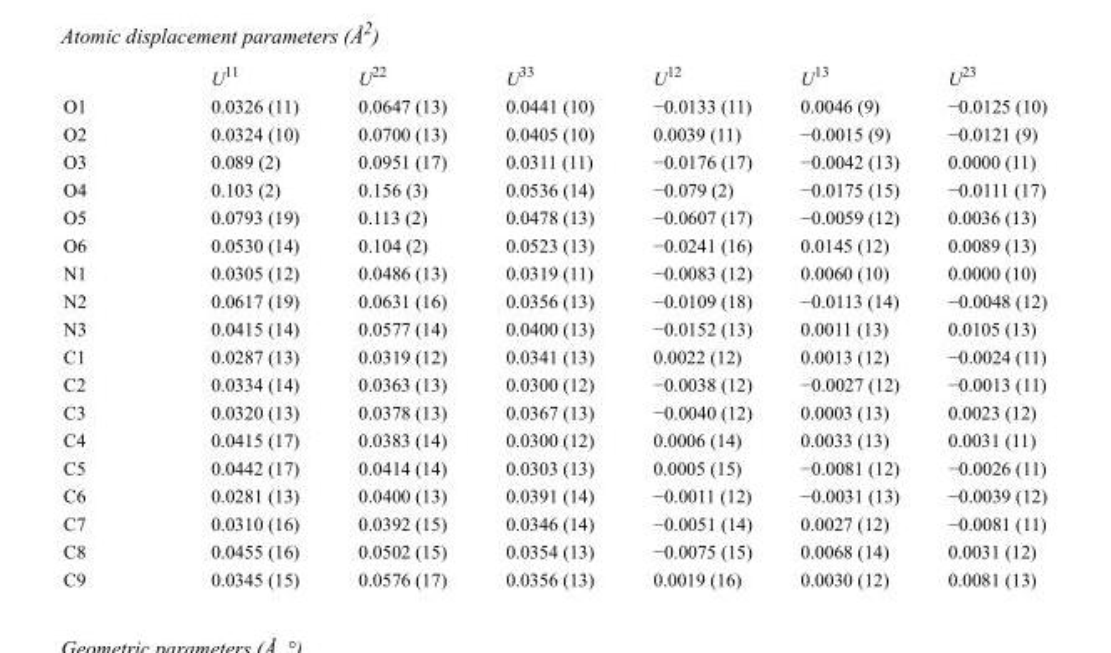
<table><thead><tr><td></td><td>U<sup>11</sup></td><td>U<sup>22</sup></td><td>U<sup>33</sup></td><td>U<sup>12</sup></td><td>U<sup>13</sup></td><td>U<sup>23</sup></td></tr></thead><tbody><tr><td>O1</td><td>0.0326 (11)</td><td>0.0647 (13)</td><td>0.0441 (10)</td><td>−0.0133 (11)</td><td>0.0046 (9)</td><td>−0.0125 (10)</td></tr><tr><td>O2</td><td>0.0324 (10)</td><td>0.0700 (13)</td><td>0.0405 (10)</td><td>0.0039 (11)</td><td>−0.0015 (9)</td><td>−0.0121 (9)</td></tr><tr><td>O3</td><td>0.089 (2)</td><td>0.0951 (17)</td><td>0.0311 (11)</td><td>−0.0176 (17)</td><td>−0.0042 (13)</td><td>0.0000 (11)</td></tr><tr><td>O4</td><td>0.103 (2)</td><td>0.156 (3)</td><td>0.0536 (14)</td><td>−0.079 (2)</td><td>−0.0175 (15)</td><td>−0.0111 (17)</td></tr><tr><td>O5</td><td>0.0793 (19)</td><td>0.113 (2)</td><td>0.0478 (13)</td><td>−0.0607 (17)</td><td>−0.0059 (12)</td><td>0.0036 (13)</td></tr><tr><td>O6</td><td>0.0530 (14)</td><td>0.104 (2)</td><td>0.0523 (13)</td><td>−0.0241 (16)</td><td>0.0145 (12)</td><td>0.0089 (13)</td></tr><tr><td>N1</td><td>0.0305 (12)</td><td>0.0486 (13)</td><td>0.0319 (11)</td><td>−0.0083 (12)</td><td>0.0060 (10)</td><td>0.0000 (10)</td></tr><tr><td>N2</td><td>0.0617 (19)</td><td>0.0631 (16)</td><td>0.0356 (13)</td><td>−0.0109 (18)</td><td>−0.0113 (14)</td><td>−0.0048 (12)</td></tr><tr><td>N3</td><td>0.0415 (14)</td><td>0.0577 (14)</td><td>0.0400 (13)</td><td>−0.0152 (13)</td><td>0.0011 (13)</td><td>0.0105 (13)</td></tr><tr><td>C1</td><td>0.0287 (13)</td><td>0.0319 (12)</td><td>0.0341 (13)</td><td>0.0022 (12)</td><td>0.0013 (12)</td><td>−0.0024 (11)</td></tr><tr><td>C2</td><td>0.0334 (14)</td><td>0.0363 (13)</td><td>0.0300 (12)</td><td>−0.0038 (12)</td><td>−0.0027 (12)</td><td>−0.0013 (11)</td></tr><tr><td>C3</td><td>0.0320 (13)</td><td>0.0378 (13)</td><td>0.0367 (13)</td><td>−0.0040 (12)</td><td>0.0003 (13)</td><td>0.0023 (12)</td></tr><tr><td>C4</td><td>0.0415 (17)</td><td>0.0383 (14)</td><td>0.0300 (12)</td><td>0.0006 (14)</td><td>0.0033 (13)</td><td>0.0031 (11)</td></tr><tr><td>C5</td><td>0.0442 (17)</td><td>0.0414 (14)</td><td>0.0303 (13)</td><td>0.0005 (15)</td><td>−0.0081 (12)</td><td>−0.0026 (11)</td></tr><tr><td>C6</td><td>0.0281 (13)</td><td>0.0400 (13)</td><td>0.0391 (14)</td><td>−0.0011 (12)</td><td>−0.0031 (13)</td><td>−0.0039 (12)</td></tr><tr><td>C7</td><td>0.0310 (16)</td><td>0.0392 (15)</td><td>0.0346 (14)</td><td>−0.0051 (14)</td><td>0.0027 (12)</td><td>−0.0081 (11)</td></tr><tr><td>C8</td><td>0.0455 (16)</td><td>0.0502 (15)</td><td>0.0354 (13)</td><td>−0.0075 (15)</td><td>0.0068 (14)</td><td>0.0031 (12)</td></tr><tr><td>C9</td><td>0.0345 (15)</td><td>0.0576 (17)</td><td>0.0356 (13)</td><td>0.0019 (16)</td><td>0.0030 (12)</td><td>0.0081 (13)</td></tr></tbody></table>